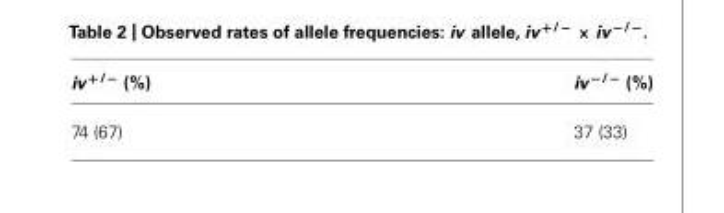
<table><thead><tr><td>iv <sup>+/−</sup> (%)</td><td>iv <sup>−/−</sup> (%)</td></tr></thead><tbody><tr><td>74 (67)</td><td>37 (33)</td></tr></tbody></table>